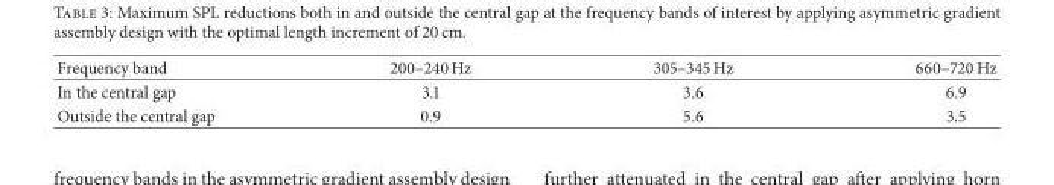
<table><thead><tr><td>Frequency band</td><td>200–240 Hz</td><td>305–345 Hz</td><td>660–720 Hz</td></tr></thead><tbody><tr><td>In the central gap</td><td>3.1</td><td>3.6</td><td>6.9</td></tr><tr><td>Outside the central gap</td><td>0.9</td><td>5.6</td><td>3.5</td></tr></tbody></table>